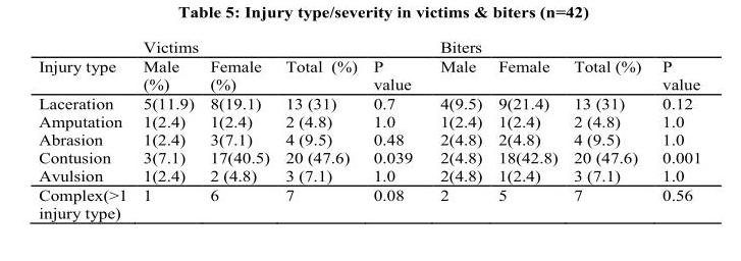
<table><thead><tr><td rowspan="3">Injury type</td><td rowspan="3">Victims Male (%)</td><td rowspan="3">Female (%)</td><td rowspan="3">Total (%)</td><td rowspan="3">P value</td><td rowspan="3">Biters Male</td><td rowspan="3">Female</td><td rowspan="3">Total (%)</td><td rowspan="3">P value</td></tr><tr></tr><tr></tr></thead><tbody><tr><td>Laceration</td><td>5(11.9)</td><td>8(19.1)</td><td>13 (31)</td><td>0.7</td><td>4(9.5)</td><td>9(21.4)</td><td>13 (31)</td><td>0.12</td></tr><tr><td>Amputation</td><td>1(2.4)</td><td>1(2.4)</td><td>2 (4.8)</td><td>1.0</td><td>1(2.4)</td><td>1(2.4)</td><td>2 (4.8)</td><td>1.0</td></tr><tr><td>Abrasion</td><td>1(2.4)</td><td>3(7.1)</td><td>4 (9.5)</td><td>0.48</td><td>2(4.8)</td><td>2(4.8)</td><td>4 (9.5)</td><td>1.0</td></tr><tr><td>Contusion</td><td>3(7.1)</td><td>17(40.5)</td><td>20 (47.6)</td><td>0.039</td><td>2(4.8)</td><td>18(42.8)</td><td>20 (47.6)</td><td>0.001</td></tr><tr><td>Avulsion</td><td>1(2.4)</td><td>2 (4.8)</td><td>3 (7.1)</td><td>1.0</td><td>2(4.8)</td><td>1(2.4)</td><td>3 (7.1)</td><td>1.0</td></tr><tr><td>Complex(&gt;1 injury type)</td><td>1</td><td>6</td><td>7</td><td>0.08</td><td>2</td><td>5</td><td>7</td><td>0.56</td></tr></tbody></table>